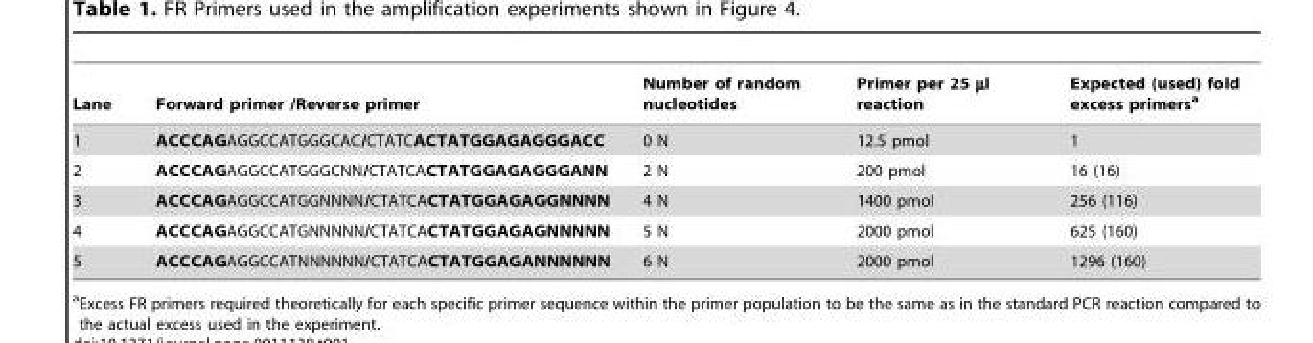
<table><thead><tr><td>Lane</td><td>Forward primer /Reverse primer</td><td>Number of random nucleotides</td><td>Primer per 25 µl reaction</td><td>Expected (used) fold excess primers<sup>a</sup></td></tr></thead><tbody><tr><td>1</td><td>ACCCAGAGGCCATGGGCAC/CTATCACTATGGAGAGGGACC</td><td>0 N</td><td>12.5 pmol</td><td>1</td></tr><tr><td>2</td><td>ACCCAGAGGCCATGGGCNN/CTATCACTATGGAGAGGGANN</td><td>2 N</td><td>200 pmol</td><td>16 (16)</td></tr><tr><td>3</td><td>ACCCAGAGGCCATGGNNNN/CTATCACTATGGAGAGGNNNN</td><td>4 N</td><td>1400 pmol</td><td>256 (116)</td></tr><tr><td>4</td><td>ACCCAGAGGCCATGNNNNN/CTATCACTATGGAGAGNNNNN</td><td>5 N</td><td>2000 pmol</td><td>625 (160)</td></tr><tr><td>5</td><td>ACCCAGAGGCCATNNNNNN/CTATCACTATGGAGANNNNNN</td><td>6 N</td><td>2000 pmol</td><td>1296 (160)</td></tr></tbody></table>